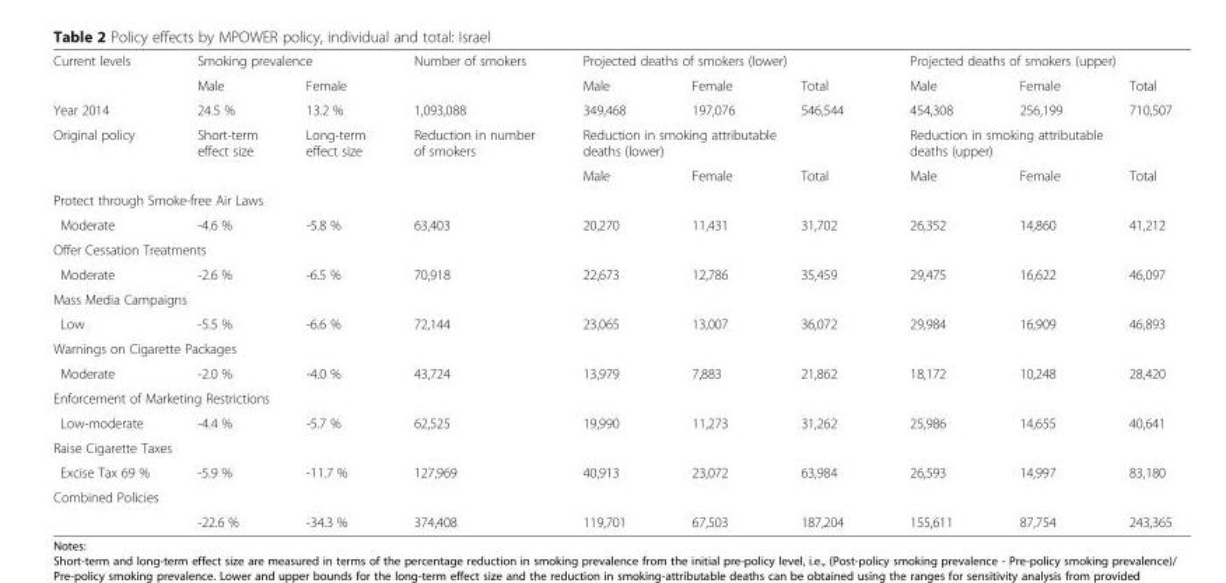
<table><tbody><tr><td rowspan="2">Current levels</td><td colspan="2">Smoking prevalence</td><td rowspan="2">Number of smokers</td><td colspan="3">Projected deaths of smokers (lower)</td><td colspan="3">Projected deaths of smokers (upper)</td></tr><tr><td>Male</td><td>Female</td><td>Male</td><td>Female</td><td>Total</td><td>Male</td><td>Female</td><td>Total</td></tr><tr><td>Year 2014</td><td>24.5 %</td><td>13.2 %</td><td>1,093,088</td><td>349,468</td><td>197,076</td><td>546,544</td><td>454,308</td><td>256,199</td><td>710,507</td></tr><tr><td rowspan="2">Original policy</td><td rowspan="2">Short-term effect size</td><td rowspan="2">Long-term effect size</td><td rowspan="2">Reduction in number of smokers</td><td colspan="3">Reduction in smoking attributable deaths (lower)</td><td colspan="3">Reduction in smoking attributable deaths (upper)</td></tr><tr><td>Male</td><td>Female</td><td>Total</td><td>Male</td><td>Female</td><td>Total</td></tr><tr><td colspan="10">Protect through Smoke-free Air Laws</td></tr><tr><td>Moderate</td><td>-4.6 %</td><td>-5.8 %</td><td>63,403</td><td>20,270</td><td>11,431</td><td>31,702</td><td>26,352</td><td>14,860</td><td>41,212</td></tr><tr><td colspan="10">Offer Cessation Treatments</td></tr><tr><td>Moderate</td><td>-2.6 %</td><td>-6.5 %</td><td>70,918</td><td>22,673</td><td>12,786</td><td>35,459</td><td>29,475</td><td>16,622</td><td>46,097</td></tr><tr><td colspan="10">Mass Media Campaigns</td></tr><tr><td>Low</td><td>-5.5 %</td><td>-6.6 %</td><td>72,144</td><td>23,065</td><td>13,007</td><td>36,072</td><td>29,984</td><td>16,909</td><td>46,893</td></tr><tr><td colspan="10">Warnings on Cigarette Packages</td></tr><tr><td>Moderate</td><td>-2.0 %</td><td>-4.0 %</td><td>43,724</td><td>13,979</td><td>7,883</td><td>21,862</td><td>18,172</td><td>10,248</td><td>28,420</td></tr><tr><td colspan="10">Enforcement of Marketing Restrictions</td></tr><tr><td>Low-moderate</td><td>-4.4 %</td><td>-5.7 %</td><td>62,525</td><td>19,990</td><td>11,273</td><td>31,262</td><td>25,986</td><td>14,655</td><td>40,641</td></tr><tr><td colspan="10">Raise Cigarette Taxes</td></tr><tr><td>Excise Tax 69 %</td><td>-5.9 %</td><td>-11.7 %</td><td>127,969</td><td>40,913</td><td>23,072</td><td>63,984</td><td>26,593</td><td>14,997</td><td>83,180</td></tr><tr><td colspan="10">Combined Policies</td></tr><tr><td></td><td>-22.6 %</td><td>-34.3 %</td><td>374,408</td><td>119,701</td><td>67,503</td><td>187,204</td><td>155,611</td><td>87,754</td><td>243,365</td></tr></tbody></table>